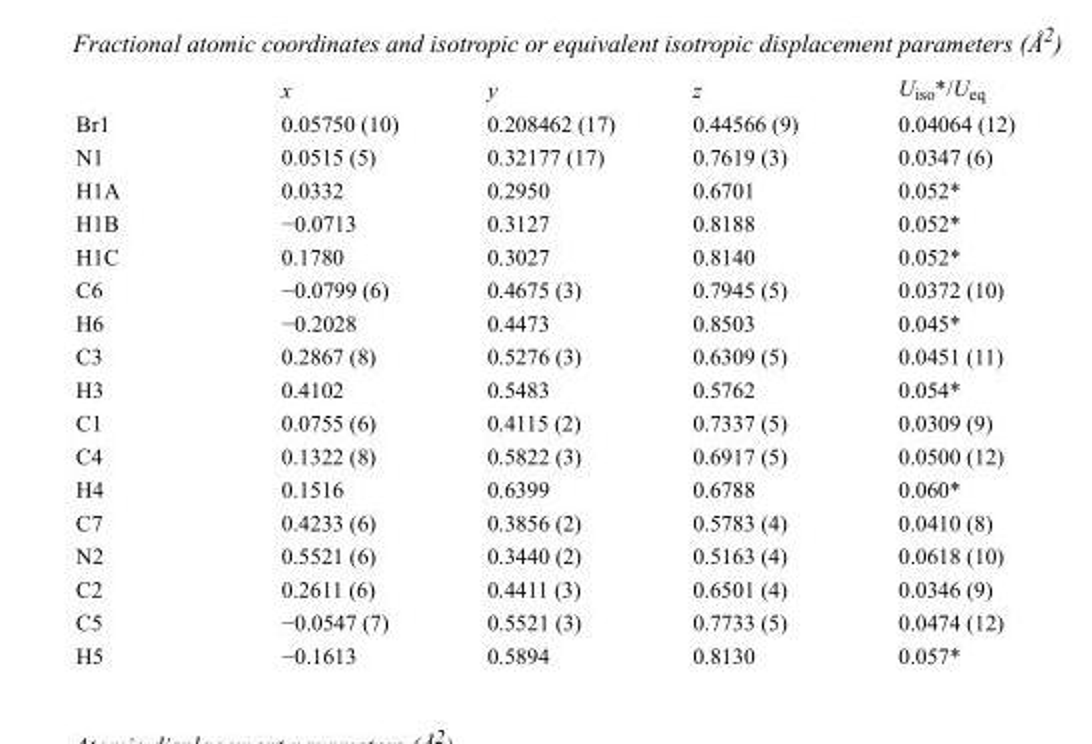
<table><thead><tr><td></td><td>x</td><td>y</td><td>z</td><td>U<sub>iso</sub>*/U<sub>eq</sub></td></tr></thead><tbody><tr><td>Br1</td><td>0.05750 (10)</td><td>0.208462 (17)</td><td>0.44566 (9)</td><td>0.04064 (12)</td></tr><tr><td>N1</td><td>0.0515 (5)</td><td>0.32177 (17)</td><td>0.7619 (3)</td><td>0.0347 (6)</td></tr><tr><td>H1A</td><td>0.0332</td><td>0.2950</td><td>0.6701</td><td>0.052*</td></tr><tr><td>H1B</td><td>−0.0713</td><td>0.3127</td><td>0.8188</td><td>0.052*</td></tr><tr><td>H1C</td><td>0.1780</td><td>0.3027</td><td>0.8140</td><td>0.052*</td></tr><tr><td>C6</td><td>−0.0799 (6)</td><td>0.4675 (3)</td><td>0.7945 (5)</td><td>0.0372 (10)</td></tr><tr><td>H6</td><td>−0.2028</td><td>0.4473</td><td>0.8503</td><td>0.045*</td></tr><tr><td>C3</td><td>0.2867 (8)</td><td>0.5276 (3)</td><td>0.6309 (5)</td><td>0.0451 (11)</td></tr><tr><td>H3</td><td>0.4102</td><td>0.5483</td><td>0.5762</td><td>0.054*</td></tr><tr><td>C1</td><td>0.0755 (6)</td><td>0.4115 (2)</td><td>0.7337 (5)</td><td>0.0309 (9)</td></tr><tr><td>C4</td><td>0.1322 (8)</td><td>0.5822 (3)</td><td>0.6917 (5)</td><td>0.0500 (12)</td></tr><tr><td>H4</td><td>0.1516</td><td>0.6399</td><td>0.6788</td><td>0.060*</td></tr><tr><td>C7</td><td>0.4233 (6)</td><td>0.3856 (2)</td><td>0.5783 (4)</td><td>0.0410 (8)</td></tr><tr><td>N2</td><td>0.5521 (6)</td><td>0.3440 (2)</td><td>0.5163 (4)</td><td>0.0618 (10)</td></tr><tr><td>C2</td><td>0.2611 (6)</td><td>0.4411 (3)</td><td>0.6501 (4)</td><td>0.0346 (9)</td></tr><tr><td>C5</td><td>−0.0547 (7)</td><td>0.5521 (3)</td><td>0.7733 (5)</td><td>0.0474 (12)</td></tr><tr><td>H5</td><td>−0.1613</td><td>0.5894</td><td>0.8130</td><td>0.057*</td></tr></tbody></table>